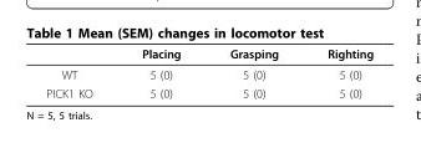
<table><thead><tr><td></td><td>Placing</td><td>Grasping</td><td>Righting</td></tr></thead><tbody><tr><td>WT</td><td>5 (0)</td><td>5 (0)</td><td>5 (0)</td></tr><tr><td>PICK1 KO</td><td>5 (0)</td><td>5 (0)</td><td>5 (0)</td></tr></tbody></table>